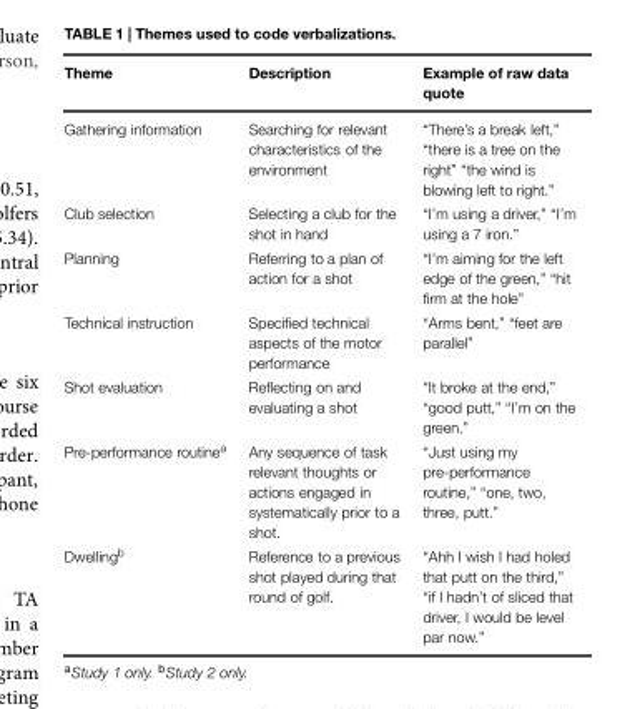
<table><thead><tr><td>Theme</td><td>Description</td><td>Example of raw data quote</td></tr></thead><tbody><tr><td>Gathering information</td><td>Searching for relevant characteristics of the environment</td><td>“There’s a break left,” “there is a tree on the right” “the wind is blowing left to right.”</td></tr><tr><td>Club selection</td><td>Selecting a club for the shot in hand</td><td>“I’m using a driver,” “I’m using a 7 iron.”</td></tr><tr><td>Planning</td><td>Referring to a plan of action for a shot</td><td>“I’m aiming for the left edge of the green,” “hit firm at the hole”</td></tr><tr><td>Technical instruction</td><td>Specified technical aspects of the motor performance</td><td>“Arms bent,” “feet are parallel”</td></tr><tr><td>Shot evaluation</td><td>Reflecting on and evaluating a shot</td><td>“It broke at the end,” “good putt,” “I’m on the green.”</td></tr><tr><td>Pre-performance routine<sup>a</sup></td><td>Any sequence of task relevant thoughts or actions engaged in systematically prior to a shot.</td><td>“Just using my pre-performance routine,” “one, two, three, putt.”</td></tr><tr><td>Dwelling<sup>b</sup></td><td>Reference to a previous shot played during that round of golf.</td><td>“Ahh I wish I had holed that putt on the third,” “if I hadn’t of sliced that driver, I would be level par now.”</td></tr></tbody></table>